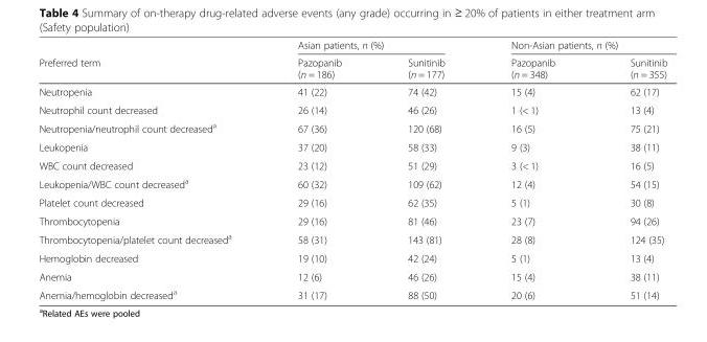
<table><thead><tr><td rowspan="2">Preferred term</td><td colspan="2">Asian patients, n (%)</td><td colspan="2">Non-Asian patients, n (%)</td></tr><tr><td>Pazopanib (n = 186)</td><td>Sunitinib (n = 177)</td><td>Pazopanib (n = 348)</td><td>Sunitinib (n = 355)</td></tr></thead><tbody><tr><td>Neutropenia</td><td>41 (22)</td><td>74 (42)</td><td>15 (4)</td><td>62 (17)</td></tr><tr><td>Neutrophil count decreased</td><td>26 (14)</td><td>46 (26)</td><td>1 (&lt; 1)</td><td>13 (4)</td></tr><tr><td>Neutropenia/neutrophil count decreased<sup>a</sup></td><td>67 (36)</td><td>120 (68)</td><td>16 (5)</td><td>75 (21)</td></tr><tr><td>Leukopenia</td><td>37 (20)</td><td>58 (33)</td><td>9 (3)</td><td>38 (11)</td></tr><tr><td>WBC count decreased</td><td>23 (12)</td><td>51 (29)</td><td>3 (&lt; 1)</td><td>16 (5)</td></tr><tr><td>Leukopenia/WBC count decreased<sup>a</sup></td><td>60 (32)</td><td>109 (62)</td><td>12 (4)</td><td>54 (15)</td></tr><tr><td>Platelet count decreased</td><td>29 (16)</td><td>62 (35)</td><td>5 (1)</td><td>30 (8)</td></tr><tr><td>Thrombocytopenia</td><td>29 (16)</td><td>81 (46)</td><td>23 (7)</td><td>94 (26)</td></tr><tr><td>Thrombocytopenia/platelet count decreased<sup>a</sup></td><td>58 (31)</td><td>143 (81)</td><td>28 (8)</td><td>124 (35)</td></tr><tr><td>Hemoglobin decreased</td><td>19 (10)</td><td>42 (24)</td><td>5 (1)</td><td>13 (4)</td></tr><tr><td>Anemia</td><td>12 (6)</td><td>46 (26)</td><td>15 (4)</td><td>38 (11)</td></tr><tr><td>Anemia/hemoglobin decreased<sup>a</sup></td><td>31 (17)</td><td>88 (50)</td><td>20 (6)</td><td>51 (14)</td></tr></tbody></table>